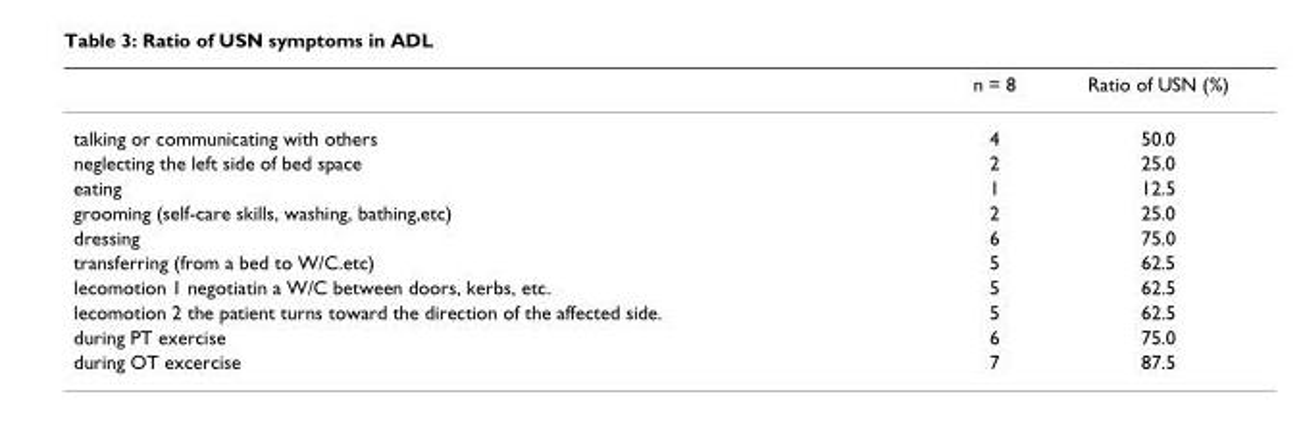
<table><thead><tr><td></td><td>n = 8</td><td>Ratio of USN (%)</td></tr></thead><tbody><tr><td>talking or communicating with others</td><td>4</td><td>50.0</td></tr><tr><td>neglecting the left side of bed space</td><td>2</td><td>25.0</td></tr><tr><td>eating</td><td>1</td><td>12.5</td></tr><tr><td>grooming (self-care skills, washing, bathing,etc)</td><td>2</td><td>25.0</td></tr><tr><td>dressing</td><td>6</td><td>75.0</td></tr><tr><td>transferring (from a bed to W/C.etc)</td><td>5</td><td>62.5</td></tr><tr><td>lecomotion 1 negotiatin a W/C between doors, kerbs, etc.</td><td>5</td><td>62.5</td></tr><tr><td>lecomotion 2 the patient turns toward the direction of the affected side.</td><td>5</td><td>62.5</td></tr><tr><td>during PT exercise</td><td>6</td><td>75.0</td></tr><tr><td>during OT excercise</td><td>7</td><td>87.5</td></tr></tbody></table>